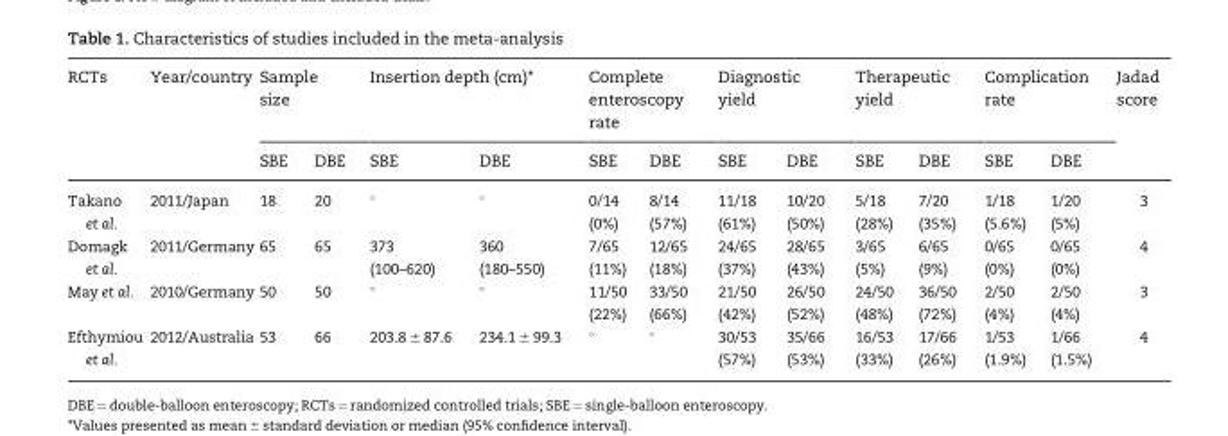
<table><thead><tr><td rowspan="2">RCTs</td><td rowspan="2">Year/country</td><td colspan="2">Sample size</td><td colspan="2">Insertion depth (cm)*</td><td colspan="2">Complete enteroscopy rate</td><td colspan="2">Diagnostic yield</td><td colspan="2">Therapeutic yield</td><td colspan="2">Complication rate</td><td rowspan="2">Jadad score</td></tr><tr><td>SBE</td><td>DBE</td><td>SBE</td><td>DBE</td><td>SBE</td><td>DBE</td><td>SBE</td><td>DBE</td><td>SBE</td><td>DBE</td><td>SBE</td><td>DBE</td></tr></thead><tbody><tr><td>Takano et al.</td><td>2011/Japan</td><td>18</td><td>20</td><td>°</td><td>°</td><td>0/14 (0%)</td><td>8/14 (57%)</td><td>11/18 (61%)</td><td>10/20 (50%)</td><td>5/18 (28%)</td><td>7/20 (35%)</td><td>1/18 (5.6%)</td><td>1/20 (5%)</td><td>3</td></tr><tr><td>Domagk et al.</td><td>2011/Germany</td><td>65</td><td>65</td><td>373 (100–620)</td><td>360 (180–550)</td><td>7/65 (11%)</td><td>12/65 (18%)</td><td>24/65 (37%)</td><td>28/65 (43%)</td><td>3/65 (5%)</td><td>6/65 (9%)</td><td>0/65 (0%)</td><td>0/65 (0%)</td><td>4</td></tr><tr><td>May et al.</td><td>2010/Germany</td><td>50</td><td>50</td><td>°</td><td>°</td><td>11/50 (22%)</td><td>33/50 (66%)</td><td>21/50 (42%)</td><td>26/50 (52%)</td><td>24/50 (48%)</td><td>36/50 (72%)</td><td>2/50 (4%)</td><td>2/50 (4%)</td><td>3</td></tr><tr><td>Efthymiou et al.</td><td>2012/Australia</td><td>53</td><td>66</td><td>203.8 ± 87.6</td><td>234.1 ± 99.3</td><td>°</td><td>°</td><td>30/53 (57%)</td><td>35/66 (53%)</td><td>16/53 (33%)</td><td>17/66 (26%)</td><td>1/53 (1.9%)</td><td>1/66 (1.5%)</td><td>4</td></tr></tbody></table>